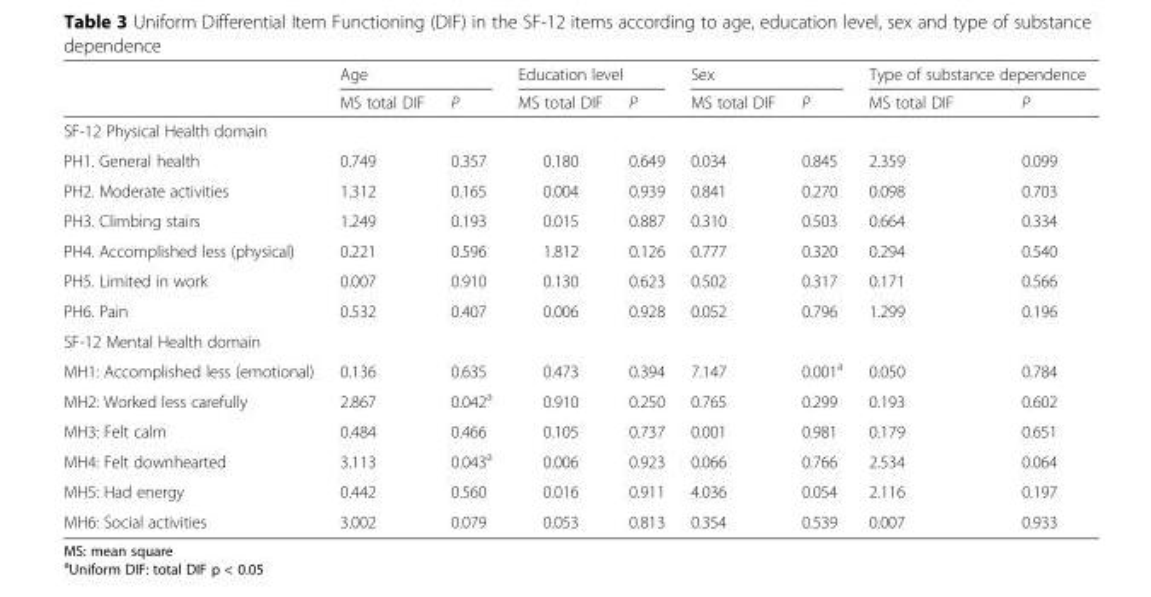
<table><thead><tr><td rowspan="2"></td><td colspan="2">Age</td><td colspan="2">Education level</td><td colspan="2">Sex</td><td colspan="2">Type of substance dependence</td></tr><tr><td>MS total DIF</td><td>P</td><td>MS total DIF</td><td>P</td><td>MS total DIF</td><td>P</td><td>MS total DIF</td><td>P</td></tr></thead><tbody><tr><td colspan="9">SF-12 Physical Health domain</td></tr><tr><td>PH1. General health</td><td>0.749</td><td>0.357</td><td>0.180</td><td>0.649</td><td>0.034</td><td>0.845</td><td>2.359</td><td>0.099</td></tr><tr><td>PH2. Moderate activities</td><td>1.312</td><td>0.165</td><td>0.004</td><td>0.939</td><td>0.841</td><td>0.270</td><td>0.098</td><td>0.703</td></tr><tr><td>PH3. Climbing stairs</td><td>1.249</td><td>0.193</td><td>0.015</td><td>0.887</td><td>0.310</td><td>0.503</td><td>0.664</td><td>0.334</td></tr><tr><td>PH4. Accomplished less (physical)</td><td>0.221</td><td>0.596</td><td>1.812</td><td>0.126</td><td>0.777</td><td>0.320</td><td>0.294</td><td>0.540</td></tr><tr><td>PH5. Limited in work</td><td>0.007</td><td>0.910</td><td>0.130</td><td>0.623</td><td>0.502</td><td>0.317</td><td>0.171</td><td>0.566</td></tr><tr><td>PH6. Pain</td><td>0.532</td><td>0.407</td><td>0.006</td><td>0.928</td><td>0.052</td><td>0.796</td><td>1.299</td><td>0.196</td></tr><tr><td colspan="9">SF-12 Mental Health domain</td></tr><tr><td>MH1: Accomplished less (emotional)</td><td>0.136</td><td>0.635</td><td>0.473</td><td>0.394</td><td>7.147</td><td>0.001<sup>a</sup></td><td>0.050</td><td>0.784</td></tr><tr><td>MH2: Worked less carefully</td><td>2.867</td><td>0.042<sup>a</sup></td><td>0.910</td><td>0.250</td><td>0.765</td><td>0.299</td><td>0.193</td><td>0.602</td></tr><tr><td>MH3: Felt calm</td><td>0.484</td><td>0.466</td><td>0.105</td><td>0.737</td><td>0.001</td><td>0.981</td><td>0.179</td><td>0.651</td></tr><tr><td>MH4: Felt downhearted</td><td>3.113</td><td>0.043<sup>a</sup></td><td>0.006</td><td>0.923</td><td>0.066</td><td>0.766</td><td>2.534</td><td>0.064</td></tr><tr><td>MH5: Had energy</td><td>0.442</td><td>0.560</td><td>0.016</td><td>0.911</td><td>4.036</td><td>0.054</td><td>2.116</td><td>0.197</td></tr><tr><td>MH6: Social activities</td><td>3.002</td><td>0.079</td><td>0.053</td><td>0.813</td><td>0.354</td><td>0.539</td><td>0.007</td><td>0.933</td></tr></tbody></table>